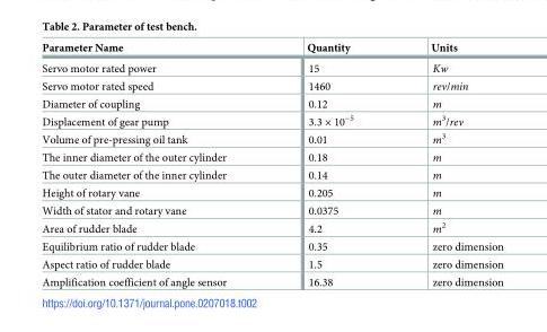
<table><thead><tr><td>Parameter Name</td><td>Quantity</td><td>Units</td></tr></thead><tbody><tr><td>Servo motor rated power</td><td>15</td><td>Kw</td></tr><tr><td>Servo motor rated speed</td><td>1460</td><td>rev/min</td></tr><tr><td>Diameter of coupling</td><td>0.12</td><td>m</td></tr><tr><td>Displacement of gear pump</td><td>3.3 × 10<sup>−5</sup></td><td>m<sup>3</sup>/rev</td></tr><tr><td>Volume of pre-pressing oil tank</td><td>0.01</td><td>m<sup>3</sup></td></tr><tr><td>The inner diameter of the outer cylinder</td><td>0.18</td><td>m</td></tr><tr><td>The outer diameter of the inner cylinder</td><td>0.14</td><td>m</td></tr><tr><td>Height of rotary vane</td><td>0.205</td><td>m</td></tr><tr><td>Width of stator and rotary vane</td><td>0.0375</td><td>m</td></tr><tr><td>Area of rudder blade</td><td>4.2</td><td>m<sup>2</sup></td></tr><tr><td>Equilibrium ratio of rudder blade</td><td>0.35</td><td>zero dimension</td></tr><tr><td>Aspect ratio of rudder blade</td><td>1.5</td><td>zero dimension</td></tr><tr><td>Amplification coefficient of angle sensor</td><td>16.38</td><td>zero dimension</td></tr></tbody></table>